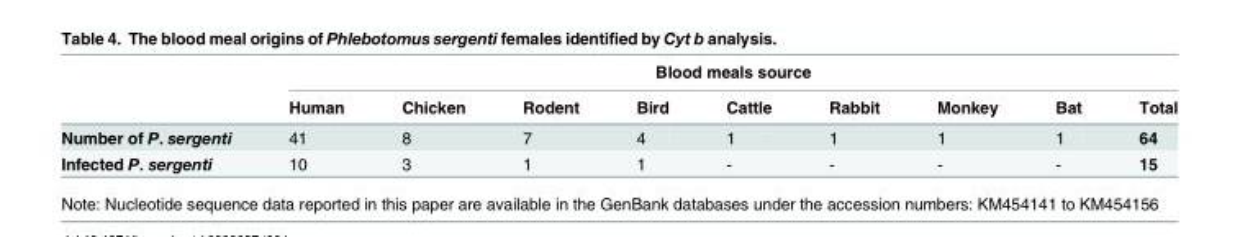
<table><thead><tr><td rowspan="2"></td><td colspan="9">Blood meals source</td></tr><tr><td>Human</td><td>Chicken</td><td>Rodent</td><td>Bird</td><td>Cattle</td><td>Rabbit</td><td>Monkey</td><td>Bat</td><td>Total</td></tr></thead><tbody><tr><td>Number of P. sergenti</td><td>41</td><td>8</td><td>7</td><td>4</td><td>1</td><td>1</td><td>1</td><td>1</td><td>64</td></tr><tr><td>Infected P. sergenti</td><td>10</td><td>3</td><td>1</td><td>1</td><td>-</td><td>-</td><td>-</td><td>-</td><td>15</td></tr></tbody></table>